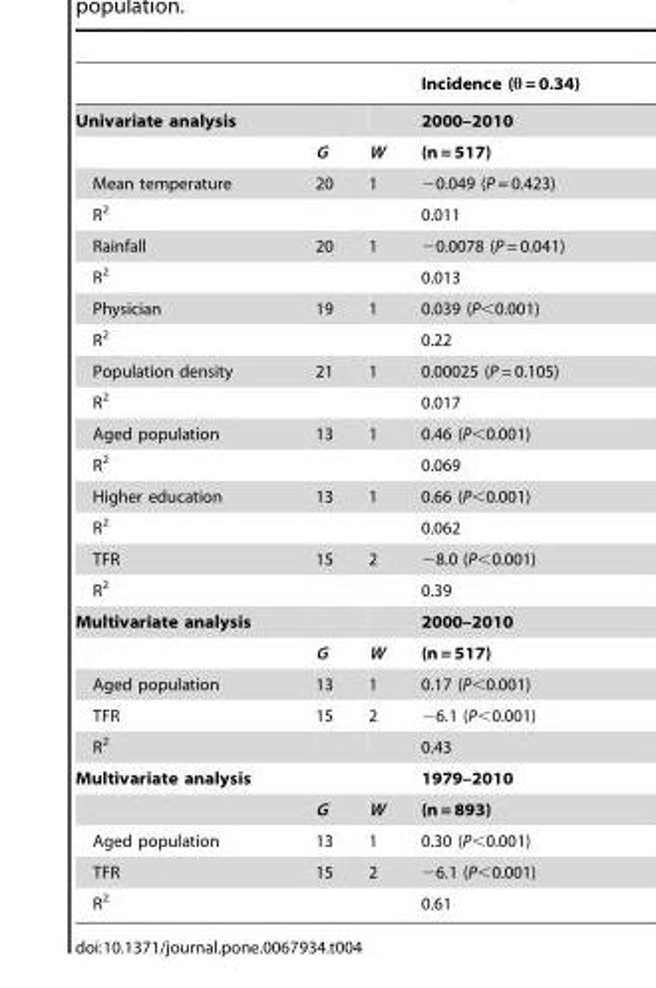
<table><thead><tr><td></td><td></td><td></td><td>Incidence (θ = 0.34)</td></tr></thead><tbody><tr><td rowspan="2">Univariate analysis</td><td></td><td></td><td>2000–2010</td></tr><tr><td>G</td><td>W</td><td>(n = 517)</td></tr><tr><td>Mean temperature</td><td>20</td><td>1</td><td>−0.049 (P = 0.423)</td></tr><tr><td>R<sup>2</sup></td><td></td><td></td><td>0.011</td></tr><tr><td>Rainfall</td><td>20</td><td>1</td><td>−0.0078 (P = 0.041)</td></tr><tr><td>R<sup>2</sup></td><td></td><td></td><td>0.013</td></tr><tr><td>Physician</td><td>19</td><td>1</td><td>0.039 (P&lt;0.001)</td></tr><tr><td>R<sup>2</sup></td><td></td><td></td><td>0.22</td></tr><tr><td>Population density</td><td>21</td><td>1</td><td>0.00025 (P = 0.105)</td></tr><tr><td>R<sup>2</sup></td><td></td><td></td><td>0.017</td></tr><tr><td>Aged population</td><td>13</td><td>1</td><td>0.46 (P&lt;0.001)</td></tr><tr><td>R<sup>2</sup></td><td></td><td></td><td>0.069</td></tr><tr><td>Higher education</td><td>13</td><td>1</td><td>0.66 (P&lt;0.001)</td></tr><tr><td>R<sup>2</sup></td><td></td><td></td><td>0.062</td></tr><tr><td>TFR</td><td>15</td><td>2</td><td>−8.0 (P&lt;0.001)</td></tr><tr><td>R<sup>2</sup></td><td></td><td></td><td>0.39</td></tr><tr><td rowspan="2">Multivariate analysis</td><td></td><td></td><td>2000–2010</td></tr><tr><td>G</td><td>W</td><td>(n = 517)</td></tr><tr><td>Aged population</td><td>13</td><td>1</td><td>0.17 (P&lt;0.001)</td></tr><tr><td>TFR</td><td>15</td><td>2</td><td>−6.1 (P&lt;0.001)</td></tr><tr><td>R<sup>2</sup></td><td></td><td></td><td>0.43</td></tr><tr><td rowspan="2">Multivariate analysis</td><td></td><td></td><td>1979–2010</td></tr><tr><td>G</td><td>W</td><td>(n = 893)</td></tr><tr><td>Aged population</td><td>13</td><td>1</td><td>0.30 (P&lt;0.001)</td></tr><tr><td>TFR</td><td>15</td><td>2</td><td>−6.1 (P&lt;0.001)</td></tr><tr><td>R<sup>2</sup></td><td></td><td></td><td>0.61</td></tr></tbody></table>